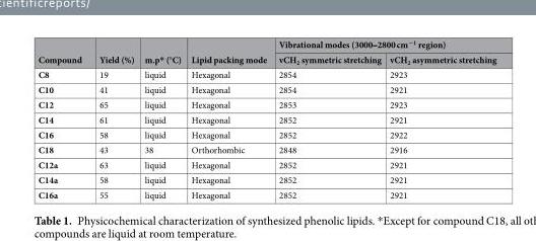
<table><thead><tr><td rowspan="2">Compound</td><td rowspan="2">Yield (%)</td><td rowspan="2">m.p* (°C)</td><td rowspan="2">Lipid packing mode</td><td colspan="2">Vibrational modes (3000‒2800 cm<sup>−1</sup> region)</td></tr><tr><td>vCH<sub>2</sub> symmetric stretching</td><td>vCH<sub>2</sub> asymmetric stretching</td></tr></thead><tbody><tr><td>C8</td><td>19</td><td>liquid</td><td>Hexagonal</td><td>2854</td><td>2923</td></tr><tr><td>C10</td><td>41</td><td>liquid</td><td>Hexagonal</td><td>2854</td><td>2921</td></tr><tr><td>C12</td><td>65</td><td>liquid</td><td>Hexagonal</td><td>2853</td><td>2923</td></tr><tr><td>C14</td><td>61</td><td>liquid</td><td>Hexagonal</td><td>2852</td><td>2921</td></tr><tr><td>C16</td><td>58</td><td>liquid</td><td>Hexagonal</td><td>2852</td><td>2922</td></tr><tr><td>C18</td><td>43</td><td>38</td><td>Orthorhombic</td><td>2848</td><td>2916</td></tr><tr><td>C12a</td><td>63</td><td>liquid</td><td>Hexagonal</td><td>2852</td><td>2921</td></tr><tr><td>C14a</td><td>58</td><td>liquid</td><td>Hexagonal</td><td>2852</td><td>2921</td></tr><tr><td>C16a</td><td>55</td><td>liquid</td><td>Hexagonal</td><td>2852</td><td>2921</td></tr></tbody></table>